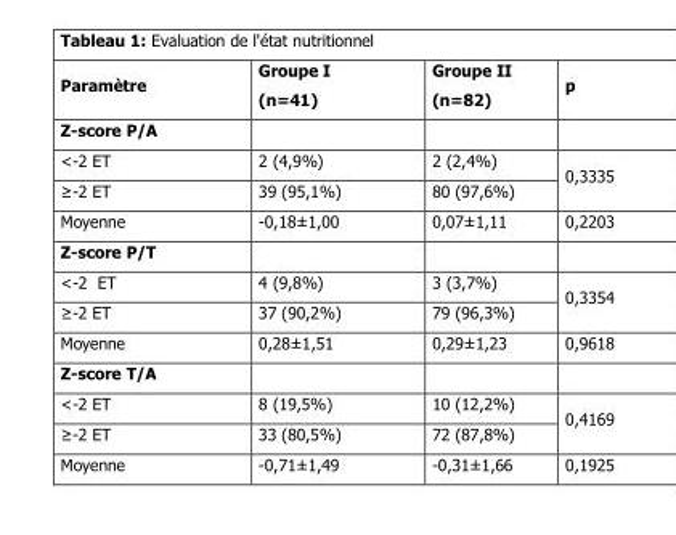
<table><thead><tr><td>Paramètre</td><td>Groupe I (n=41)</td><td>Groupe II (n=82)</td><td>p</td></tr></thead><tbody><tr><td colspan="4">Z-score P/A</td></tr><tr><td>&lt;-2 ET</td><td>2 (4,9%)</td><td>2 (2,4%)</td><td rowspan="2">0,3335</td></tr><tr><td>≥-2 ET</td><td>39 (95,1%)</td><td>80 (97,6%)</td></tr><tr><td>Moyenne</td><td>-0,18±1,00</td><td>0,07±1,11</td><td>0,2203</td></tr><tr><td colspan="4">Z-score P/T</td></tr><tr><td>&lt;-2 ET</td><td>4 (9,8%)</td><td>3 (3,7%)</td><td rowspan="2">0,3354</td></tr><tr><td>≥-2 ET</td><td>37 (90,2%)</td><td>79 (96,3%)</td></tr><tr><td>Moyenne</td><td>0,28±1,51</td><td>0,29±1,23</td><td>0,9618</td></tr><tr><td colspan="4">Z-score T/A</td></tr><tr><td>&lt;-2 ET</td><td>8 (19,5%)</td><td>10 (12,2%)</td><td rowspan="2">0,4169</td></tr><tr><td>≥-2 ET</td><td>33 (80,5%)</td><td>72 (87,8%)</td></tr><tr><td>Moyenne</td><td>-0,71±1,49</td><td>-0,31±1,66</td><td>0,1925</td></tr></tbody></table>